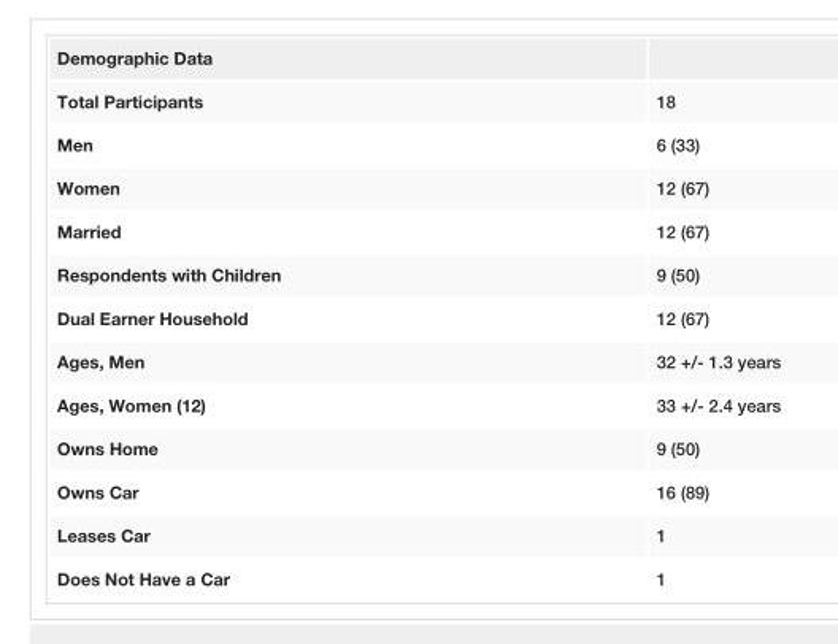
<table><tbody><tr><td colspan="2">Demographic Data</td></tr><tr><td>Total Participants</td><td>18</td></tr><tr><td>Men</td><td>6 (33)</td></tr><tr><td>Women</td><td>12 (67)</td></tr><tr><td>Married</td><td>12 (67)</td></tr><tr><td>Respondents with Children</td><td>9 (50)</td></tr><tr><td>Dual Earner Household</td><td>12 (67)</td></tr><tr><td>Ages, Men</td><td>32 +/- 1.3 years</td></tr><tr><td>Ages, Women (12)</td><td>33 +/- 2.4 years</td></tr><tr><td>Owns Home</td><td>9 (50)</td></tr><tr><td>Owns Car</td><td>16 (89)</td></tr><tr><td>Leases Car</td><td>1</td></tr><tr><td>Does Not Have a Car</td><td>1</td></tr></tbody></table>